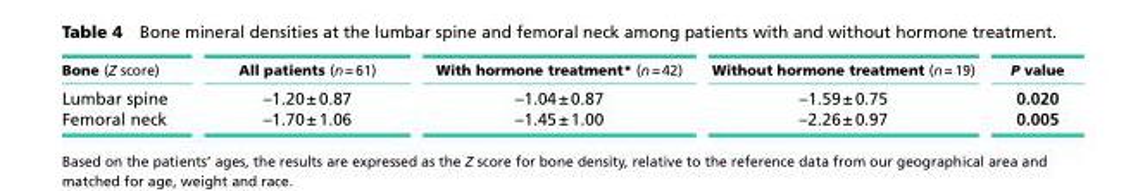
<table><thead><tr><td>Bone (Z score)</td><td>All patients (n = 61)</td><td>With hormone treatment* (n = 42)</td><td>Without hormone treatment (n = 19)</td><td>P value</td></tr></thead><tbody><tr><td>Lumbar spine</td><td>–1.20 ± 0.87</td><td>–1.04 ± 0.87</td><td>–1.59 ± 0.75</td><td>0.020</td></tr><tr><td>Femoral neck</td><td>–1.70 ± 1.06</td><td>–1.45 ± 1.00</td><td>–2.26 ± 0.97</td><td>0.005</td></tr></tbody></table>